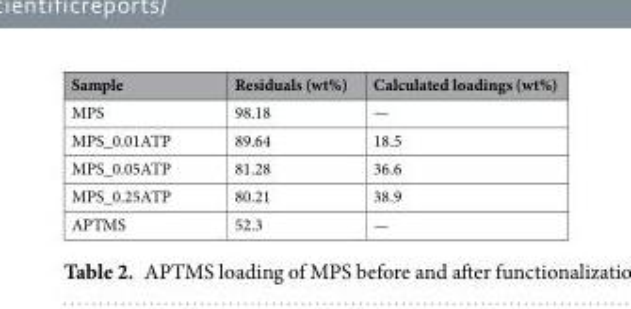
<table><thead><tr><td>Sample</td><td>Residuals (wt%)</td><td>Calculated loadings (wt%)</td></tr></thead><tbody><tr><td>MPS</td><td>98.18</td><td>—</td></tr><tr><td>MPS_0.01ATP</td><td>89.64</td><td>18.5</td></tr><tr><td>MPS_0.05ATP</td><td>81.28</td><td>36.6</td></tr><tr><td>MPS_0.25ATP</td><td>80.21</td><td>38.9</td></tr><tr><td>APTMS</td><td>52.3</td><td>—</td></tr></tbody></table>